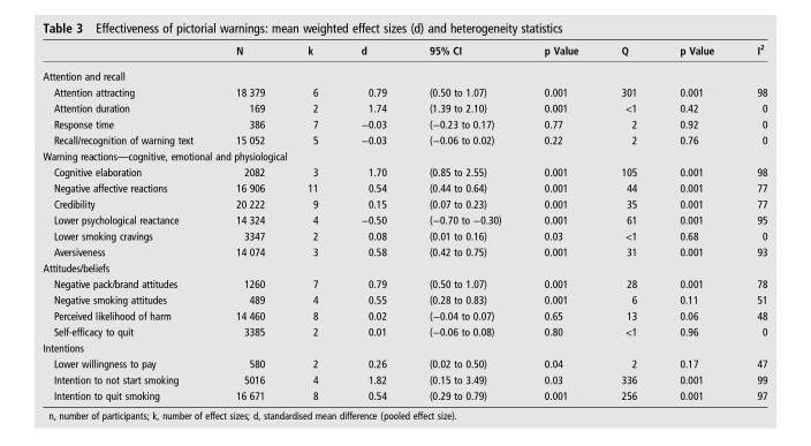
<table><thead><tr><td></td><td>N</td><td>k</td><td>d</td><td>95% CI</td><td>p Value</td><td>Q</td><td>p Value</td><td>I<sup>2</sup></td></tr></thead><tbody><tr><td colspan="9">Attention and recall</td></tr><tr><td>Attention attracting</td><td>18 379</td><td>6</td><td>0.79</td><td>(0.50 to 1.07)</td><td>0.001</td><td>301</td><td>0.001</td><td>98</td></tr><tr><td>Attention duration</td><td>169</td><td>2</td><td>1.74</td><td>(1.39 to 2.10)</td><td>0.001</td><td>&lt;1</td><td>0.42</td><td>0</td></tr><tr><td>Response time</td><td>386</td><td>7</td><td>−0.03</td><td>(−0.23 to 0.17)</td><td>0.77</td><td>2</td><td>0.92</td><td>0</td></tr><tr><td>Recall/recognition of warning text</td><td>15 052</td><td>5</td><td>−0.03</td><td>(−0.06 to 0.02)</td><td>0.22</td><td>2</td><td>0.76</td><td>0</td></tr><tr><td colspan="9">Warning reactions—cognitive, emotional and physiological</td></tr><tr><td>Cognitive elaboration</td><td>2082</td><td>3</td><td>1.70</td><td>(0.85 to 2.55)</td><td>0.001</td><td>105</td><td>0.001</td><td>98</td></tr><tr><td>Negative affective reactions</td><td>16 906</td><td>11</td><td>0.54</td><td>(0.44 to 0.64)</td><td>0.001</td><td>44</td><td>0.001</td><td>77</td></tr><tr><td>Credibility</td><td>20 222</td><td>9</td><td>0.15</td><td>(0.07 to 0.23)</td><td>0.001</td><td>35</td><td>0.001</td><td>77</td></tr><tr><td>Lower psychological reactance</td><td>14 324</td><td>4</td><td>−0.50</td><td>(−0.70 to −0.30)</td><td>0.001</td><td>61</td><td>0.001</td><td>95</td></tr><tr><td>Lower smoking cravings</td><td>3347</td><td>2</td><td>0.08</td><td>(0.01 to 0.16)</td><td>0.03</td><td>&lt;1</td><td>0.68</td><td>0</td></tr><tr><td>Aversiveness</td><td>14 074</td><td>3</td><td>0.58</td><td>(0.42 to 0.75)</td><td>0.001</td><td>31</td><td>0.001</td><td>93</td></tr><tr><td colspan="9">Attitudes/beliefs</td></tr><tr><td>Negative pack/brand attitudes</td><td>1260</td><td>7</td><td>0.79</td><td>(0.50 to 1.07)</td><td>0.001</td><td>28</td><td>0.001</td><td>78</td></tr><tr><td>Negative smoking attitudes</td><td>489</td><td>4</td><td>0.55</td><td>(0.28 to 0.83)</td><td>0.001</td><td>6</td><td>0.11</td><td>51</td></tr><tr><td>Perceived likelihood of harm</td><td>14 460</td><td>8</td><td>0.02</td><td>(−0.04 to 0.07)</td><td>0.65</td><td>13</td><td>0.06</td><td>48</td></tr><tr><td>Self-efficacy to quit</td><td>3385</td><td>2</td><td>0.01</td><td>(−0.06 to 0.08)</td><td>0.80</td><td>&lt;1</td><td>0.96</td><td>0</td></tr><tr><td colspan="9">Intentions</td></tr><tr><td>Lower willingness to pay</td><td>580</td><td>2</td><td>0.26</td><td>(0.02 to 0.50)</td><td>0.04</td><td>2</td><td>0.17</td><td>47</td></tr><tr><td>Intention to not start smoking</td><td>5016</td><td>4</td><td>1.82</td><td>(0.15 to 3.49)</td><td>0.03</td><td>336</td><td>0.001</td><td>99</td></tr><tr><td>Intention to quit smoking</td><td>16 671</td><td>8</td><td>0.54</td><td>(0.29 to 0.79)</td><td>0.001</td><td>256</td><td>0.001</td><td>97</td></tr></tbody></table>